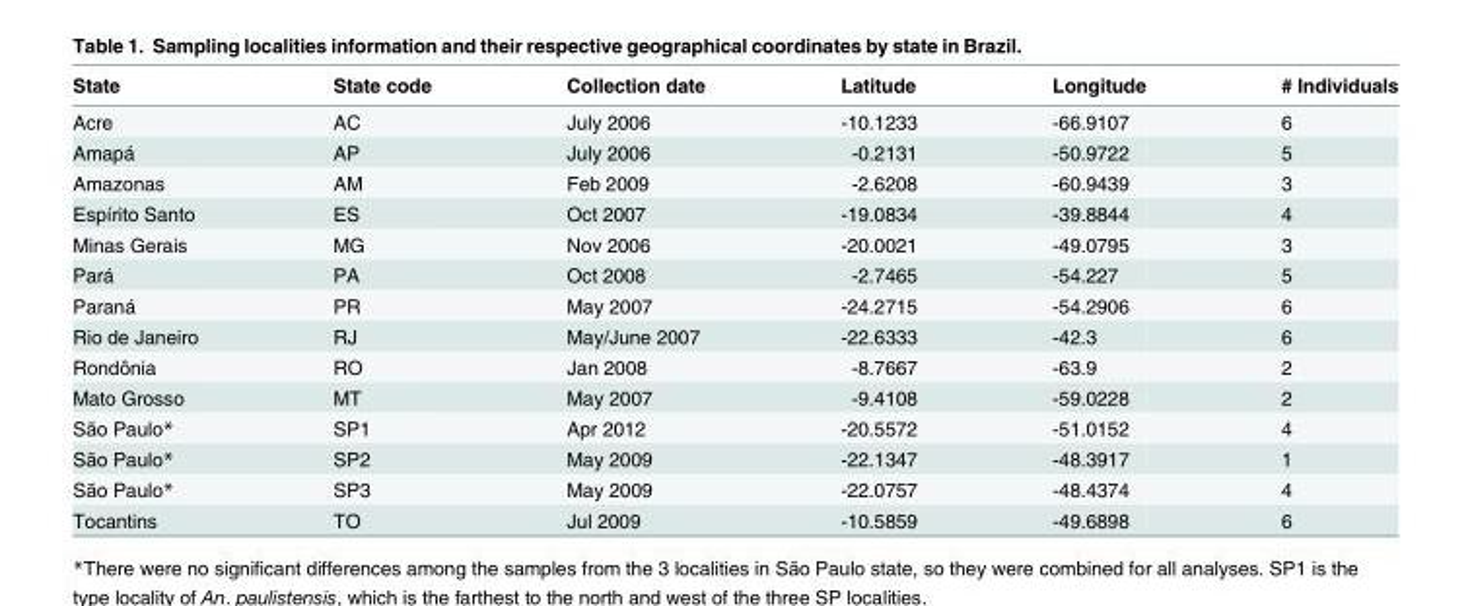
<table><thead><tr><td>State</td><td>State code</td><td>Collection date</td><td>Latitude</td><td>Longitude</td><td># Individuals</td></tr></thead><tbody><tr><td>Acre</td><td>AC</td><td>July 2006</td><td>-10.1233</td><td>-66.9107</td><td>6</td></tr><tr><td>Amapá</td><td>AP</td><td>July 2006</td><td>-0.2131</td><td>-50.9722</td><td>5</td></tr><tr><td>Amazonas</td><td>AM</td><td>Feb 2009</td><td>-2.6208</td><td>-60.9439</td><td>3</td></tr><tr><td>Espírito Santo</td><td>ES</td><td>Oct 2007</td><td>-19.0834</td><td>-39.8844</td><td>4</td></tr><tr><td>Minas Gerais</td><td>MG</td><td>Nov 2006</td><td>-20.0021</td><td>-49.0795</td><td>3</td></tr><tr><td>Pará</td><td>PA</td><td>Oct 2008</td><td>-2.7465</td><td>-54.227</td><td>5</td></tr><tr><td>Paraná</td><td>PR</td><td>May 2007</td><td>-24.2715</td><td>-54.2906</td><td>6</td></tr><tr><td>Rio de Janeiro</td><td>RJ</td><td>May/June 2007</td><td>-22.6333</td><td>-42.3</td><td>6</td></tr><tr><td>Rondônia</td><td>RO</td><td>Jan 2008</td><td>-8.7667</td><td>-63.9</td><td>2</td></tr><tr><td>Mato Grosso</td><td>MT</td><td>May 2007</td><td>-9.4108</td><td>-59.0228</td><td>2</td></tr><tr><td>São Paulo*</td><td>SP1</td><td>Apr 2012</td><td>-20.5572</td><td>-51.0152</td><td>4</td></tr><tr><td>São Paulo*</td><td>SP2</td><td>May 2009</td><td>-22.1347</td><td>-48.3917</td><td>1</td></tr><tr><td>São Paulo*</td><td>SP3</td><td>May 2009</td><td>-22.0757</td><td>-48.4374</td><td>4</td></tr><tr><td>Tocantins</td><td>TO</td><td>Jul 2009</td><td>-10.5859</td><td>-49.6898</td><td>6</td></tr></tbody></table>